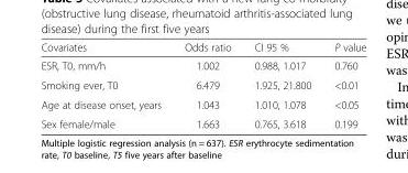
<table><thead><tr><td>Covariates</td><td>Odds ratio</td><td>CI 95 %</td><td>P value</td></tr></thead><tbody><tr><td>ESR, T0, mm/h</td><td>1.002</td><td>0.988, 1.017</td><td>0.760</td></tr><tr><td>Smoking ever, T0</td><td>6.479</td><td>1.925, 21.800</td><td>&lt;0.01</td></tr><tr><td>Age at disease onset, years</td><td>1.043</td><td>1.010, 1.078</td><td>&lt;0.05</td></tr><tr><td>Sex female/male</td><td>1.663</td><td>0.765, 3.618</td><td>0.199</td></tr></tbody></table>